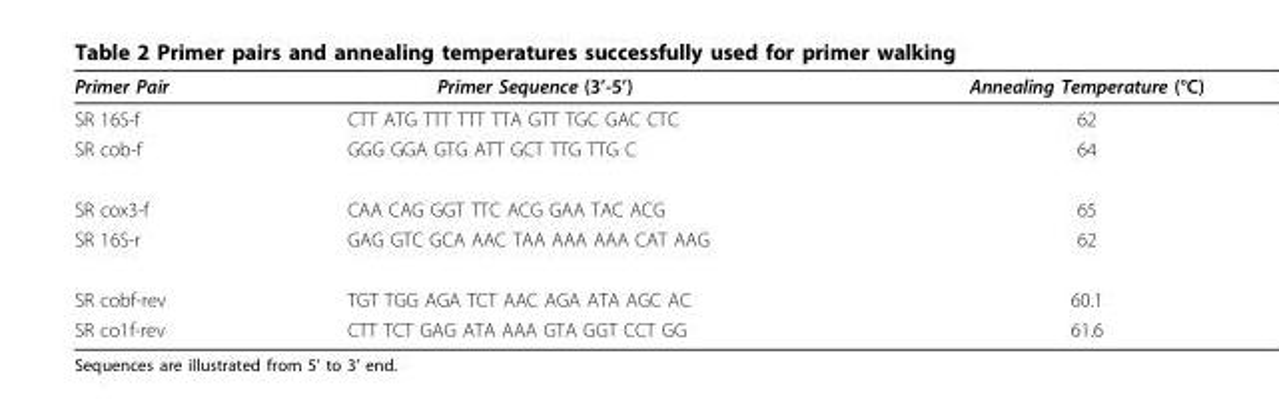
<table><thead><tr><td>Primer Pair</td><td>Primer Sequence (3’-5’)</td><td>Annealing Temperature (°C)</td></tr></thead><tbody><tr><td>SR 16S-f</td><td>CTT ATG TTT TTT TTA GTT TGC GAC CTC</td><td>62</td></tr><tr><td>SR cob-f</td><td>GGG GGA GTG ATT GCT TTG TTG C</td><td>64</td></tr><tr><td>SR cox3-f</td><td>CAA CAG GGT TTC ACG GAA TAC ACG</td><td>65</td></tr><tr><td>SR 16S-r</td><td>GAG GTC GCA AAC TAA AAA AAA CAT AAG</td><td>62</td></tr><tr><td>SR cobf-rev</td><td>TGT TGG AGA TCT AAC AGA ATA AGC AC</td><td>60.1</td></tr><tr><td>SR co1f-rev</td><td>CTT TCT GAG ATA AAA GTA GGT CCT GG</td><td>61.6</td></tr></tbody></table>